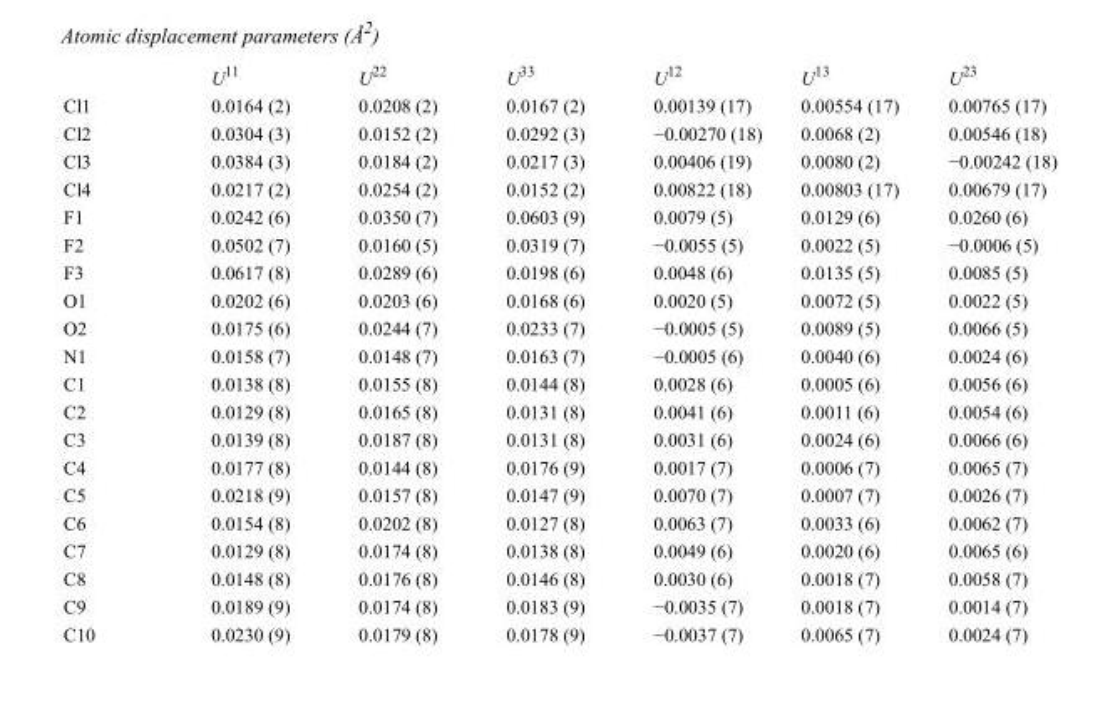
<table><thead><tr><td></td><td>U<sup>11</sup></td><td>U<sup>22</sup></td><td>U<sup>33</sup></td><td>U<sup>12</sup></td><td>U<sup>13</sup></td><td>U<sup>23</sup></td></tr></thead><tbody><tr><td>Cl1</td><td>0.0164 (2)</td><td>0.0208 (2)</td><td>0.0167 (2)</td><td>0.00139 (17)</td><td>0.00554 (17)</td><td>0.00765 (17)</td></tr><tr><td>Cl2</td><td>0.0304 (3)</td><td>0.0152 (2)</td><td>0.0292 (3)</td><td>−0.00270 (18)</td><td>0.0068 (2)</td><td>0.00546 (18)</td></tr><tr><td>Cl3</td><td>0.0384 (3)</td><td>0.0184 (2)</td><td>0.0217 (3)</td><td>0.00406 (19)</td><td>0.0080 (2)</td><td>−0.00242 (18)</td></tr><tr><td>Cl4</td><td>0.0217 (2)</td><td>0.0254 (2)</td><td>0.0152 (2)</td><td>0.00822 (18)</td><td>0.00803 (17)</td><td>0.00679 (17)</td></tr><tr><td>F1</td><td>0.0242 (6)</td><td>0.0350 (7)</td><td>0.0603 (9)</td><td>0.0079 (5)</td><td>0.0129 (6)</td><td>0.0260 (6)</td></tr><tr><td>F2</td><td>0.0502 (7)</td><td>0.0160 (5)</td><td>0.0319 (7)</td><td>−0.0055 (5)</td><td>0.0022 (5)</td><td>−0.0006 (5)</td></tr><tr><td>F3</td><td>0.0617 (8)</td><td>0.0289 (6)</td><td>0.0198 (6)</td><td>0.0048 (6)</td><td>0.0135 (5)</td><td>0.0085 (5)</td></tr><tr><td>O1</td><td>0.0202 (6)</td><td>0.0203 (6)</td><td>0.0168 (6)</td><td>0.0020 (5)</td><td>0.0072 (5)</td><td>0.0022 (5)</td></tr><tr><td>O2</td><td>0.0175 (6)</td><td>0.0244 (7)</td><td>0.0233 (7)</td><td>−0.0005 (5)</td><td>0.0089 (5)</td><td>0.0066 (5)</td></tr><tr><td>N1</td><td>0.0158 (7)</td><td>0.0148 (7)</td><td>0.0163 (7)</td><td>−0.0005 (6)</td><td>0.0040 (6)</td><td>0.0024 (6)</td></tr><tr><td>C1</td><td>0.0138 (8)</td><td>0.0155 (8)</td><td>0.0144 (8)</td><td>0.0028 (6)</td><td>0.0005 (6)</td><td>0.0056 (6)</td></tr><tr><td>C2</td><td>0.0129 (8)</td><td>0.0165 (8)</td><td>0.0131 (8)</td><td>0.0041 (6)</td><td>0.0011 (6)</td><td>0.0054 (6)</td></tr><tr><td>C3</td><td>0.0139 (8)</td><td>0.0187 (8)</td><td>0.0131 (8)</td><td>0.0031 (6)</td><td>0.0024 (6)</td><td>0.0066 (6)</td></tr><tr><td>C4</td><td>0.0177 (8)</td><td>0.0144 (8)</td><td>0.0176 (9)</td><td>0.0017 (7)</td><td>0.0006 (7)</td><td>0.0065 (7)</td></tr><tr><td>C5</td><td>0.0218 (9)</td><td>0.0157 (8)</td><td>0.0147 (9)</td><td>0.0070 (7)</td><td>0.0007 (7)</td><td>0.0026 (7)</td></tr><tr><td>C6</td><td>0.0154 (8)</td><td>0.0202 (8)</td><td>0.0127 (8)</td><td>0.0063 (7)</td><td>0.0033 (6)</td><td>0.0062 (7)</td></tr><tr><td>C7</td><td>0.0129 (8)</td><td>0.0174 (8)</td><td>0.0138 (8)</td><td>0.0049 (6)</td><td>0.0020 (6)</td><td>0.0065 (6)</td></tr><tr><td>C8</td><td>0.0148 (8)</td><td>0.0176 (8)</td><td>0.0146 (8)</td><td>0.0030 (6)</td><td>0.0018 (7)</td><td>0.0058 (7)</td></tr><tr><td>C9</td><td>0.0189 (9)</td><td>0.0174 (8)</td><td>0.0183 (9)</td><td>−0.0035 (7)</td><td>0.0018 (7)</td><td>0.0014 (7)</td></tr><tr><td>C10</td><td>0.0230 (9)</td><td>0.0179 (8)</td><td>0.0178 (9)</td><td>−0.0037 (7)</td><td>0.0065 (7)</td><td>0.0024 (7)</td></tr></tbody></table>